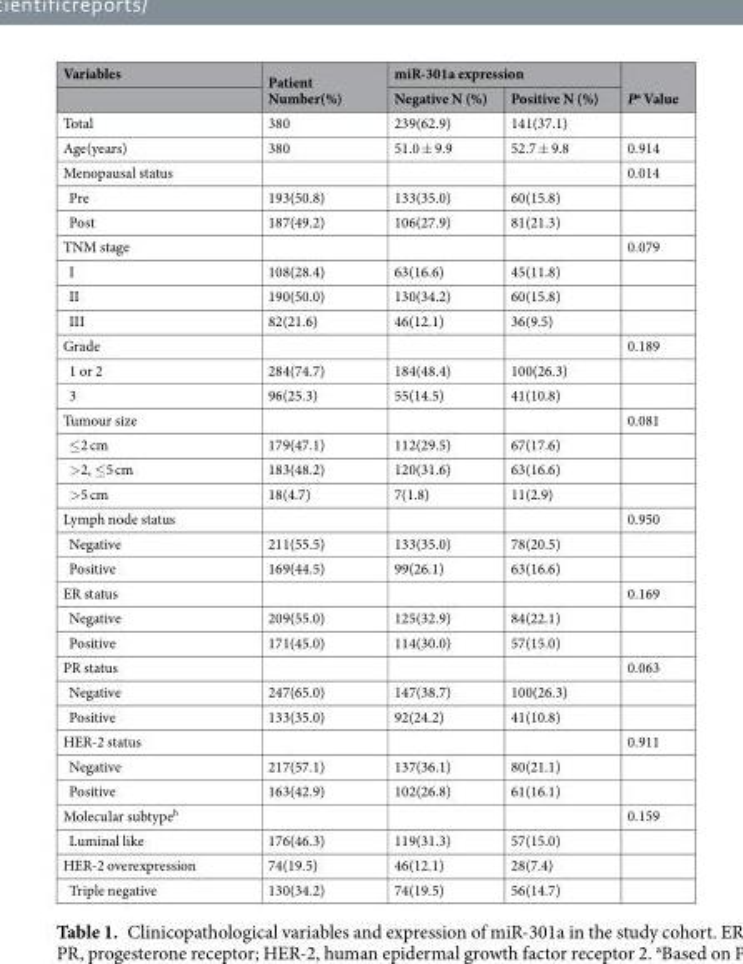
<table><thead><tr><td rowspan="2">Variables</td><td rowspan="2">Patient Number(%)</td><td colspan="2">miR-301a expression</td><td rowspan="2">P<sup>a</sup> Value</td></tr><tr><td>Negative N (%)</td><td>Positive N (%)</td></tr></thead><tbody><tr><td>Total</td><td>380</td><td>239(62.9)</td><td>141(37.1)</td><td></td></tr><tr><td>Age(years)</td><td>380</td><td>51.0 ± 9.9</td><td>52.7 ± 9.8</td><td>0.914</td></tr><tr><td>Menopausal status</td><td></td><td></td><td></td><td>0.014</td></tr><tr><td>Pre</td><td>193(50.8)</td><td>133(35.0)</td><td>60(15.8)</td><td></td></tr><tr><td>Post</td><td>187(49.2)</td><td>106(27.9)</td><td>81(21.3)</td><td></td></tr><tr><td>TNM stage</td><td></td><td></td><td></td><td>0.079</td></tr><tr><td>I</td><td>108(28.4)</td><td>63(16.6)</td><td>45(11.8)</td><td></td></tr><tr><td>II</td><td>190(50.0)</td><td>130(34.2)</td><td>60(15.8)</td><td></td></tr><tr><td>III</td><td>82(21.6)</td><td>46(12.1)</td><td>36(9.5)</td><td></td></tr><tr><td>Grade</td><td></td><td></td><td></td><td>0.189</td></tr><tr><td>1 or 2</td><td>284(74.7)</td><td>184(48.4)</td><td>100(26.3)</td><td></td></tr><tr><td>3</td><td>96(25.3)</td><td>55(14.5)</td><td>41(10.8)</td><td></td></tr><tr><td>Tumour size</td><td></td><td></td><td></td><td>0.081</td></tr><tr><td>≤2 cm</td><td>179(47.1)</td><td>112(29.5)</td><td>67(17.6)</td><td></td></tr><tr><td>&gt;2, ≤5 cm</td><td>183(48.2)</td><td>120(31.6)</td><td>63(16.6)</td><td></td></tr><tr><td>&gt;5 cm</td><td>18(4.7)</td><td>7(1.8)</td><td>11(2.9)</td><td></td></tr><tr><td>Lymph node status</td><td></td><td></td><td></td><td>0.950</td></tr><tr><td>Negative</td><td>211(55.5)</td><td>133(35.0)</td><td>78(20.5)</td><td></td></tr><tr><td>Positive</td><td>169(44.5)</td><td>99(26.1)</td><td>63(16.6)</td><td></td></tr><tr><td>ER status</td><td></td><td></td><td></td><td>0.169</td></tr><tr><td>Negative</td><td>209(55.0)</td><td>125(32.9)</td><td>84(22.1)</td><td></td></tr><tr><td>Positive</td><td>171(45.0)</td><td>114(30.0)</td><td>57(15.0)</td><td></td></tr><tr><td>PR status</td><td></td><td></td><td></td><td>0.063</td></tr><tr><td>Negative</td><td>247(65.0)</td><td>147(38.7)</td><td>100(26.3)</td><td></td></tr><tr><td>Positive</td><td>133(35.0)</td><td>92(24.2)</td><td>41(10.8)</td><td></td></tr><tr><td>HER-2 status</td><td></td><td></td><td></td><td>0.911</td></tr><tr><td>Negative</td><td>217(57.1)</td><td>137(36.1)</td><td>80(21.1)</td><td></td></tr><tr><td>Positive</td><td>163(42.9)</td><td>102(26.8)</td><td>61(16.1)</td><td></td></tr><tr><td>Molecular subtype<sup>b</sup></td><td></td><td></td><td></td><td>0.159</td></tr><tr><td>Luminal like</td><td>176(46.3)</td><td>119(31.3)</td><td>57(15.0)</td><td></td></tr><tr><td>HER-2 overexpression</td><td>74(19.5)</td><td>46(12.1)</td><td>28(7.4)</td><td></td></tr><tr><td>Triple negative</td><td>130(34.2)</td><td>74(19.5)</td><td>56(14.7)</td><td></td></tr></tbody></table>